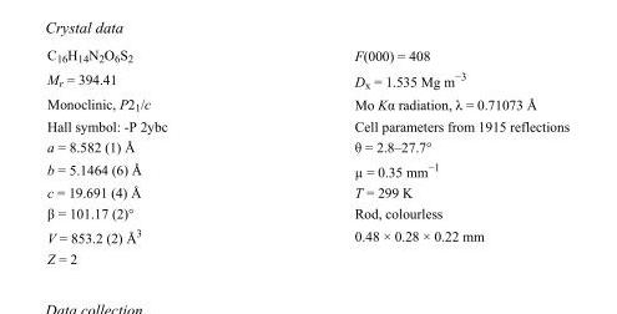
<table><tbody><tr><td>C<sub>16</sub>H<sub>14</sub>N<sub>2</sub>O<sub>6</sub>S<sub>2</sub></td><td>F(000) = 408</td></tr><tr><td>M<sub>r</sub> = 394.41</td><td>D<sub>x</sub> = 1.535 Mg m<sup>−3</sup></td></tr><tr><td>Monoclinic, P2<sub>1</sub>/c</td><td>Mo Kα radiation, λ = 0.71073 Å</td></tr><tr><td>Hall symbol: -P 2ybc</td><td>Cell parameters from 1915 reflections</td></tr><tr><td>a = 8.582 (1) Å</td><td>θ = 2.8–27.7°</td></tr><tr><td>b = 5.1464 (6) Å</td><td>µ = 0.35 mm<sup>−1</sup></td></tr><tr><td>c = 19.691 (4) Å</td><td>T = 299 K</td></tr><tr><td>β = 101.17 (2)°</td><td>Rod, colourless</td></tr><tr><td>V = 853.2 (2) Å<sup>3</sup></td><td>0.48 × 0.28 × 0.22 mm</td></tr><tr><td>Z = 2</td><td></td></tr></tbody></table>